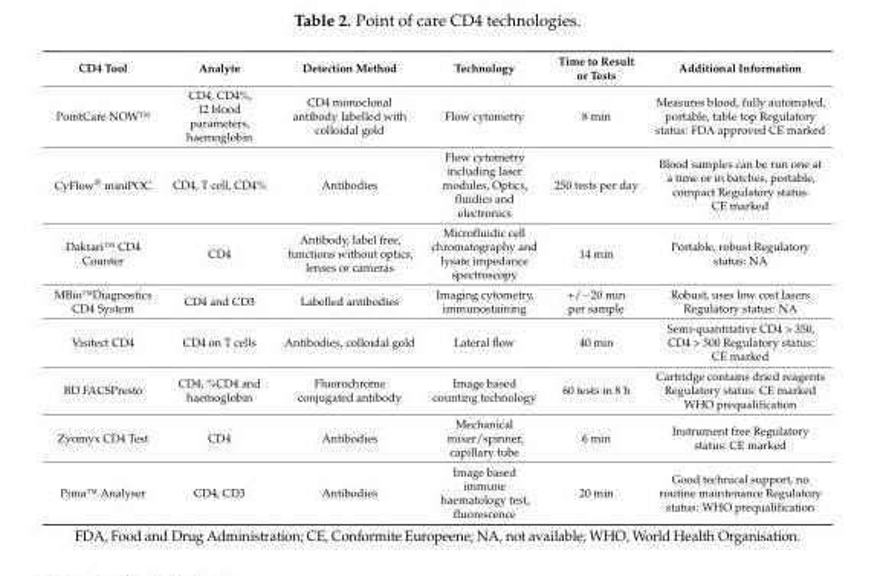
<table><thead><tr><td>CD4 Tool</td><td>Analyte</td><td>Detection Method</td><td>Technology</td><td>Time to Result or Tests</td><td>Additional Information</td></tr></thead><tbody><tr><td>PointCare NOW™</td><td>CD4, CD4%, 12 blood parameters, haemoglobin</td><td>CD4 monoclonal antibody labelled with colloidal gold</td><td>Flow cytometry</td><td>8 min</td><td>Measures blood, fully automated, portable, table top Regulatory status: FDA approved CE marked</td></tr><tr><td>CyFlow<sup>®</sup> miniPOC</td><td>CD4, T cell, CD4%</td><td>Antibodies</td><td>Flow cytometry including laser modules, Optics, fluidics and electronics</td><td>250 tests per day</td><td>Blood samples can be run one at a time or in batches, portable, compact Regulatory status: CE marked</td></tr><tr><td>Daktari™ CD4 Counter</td><td>CD4</td><td>Antibody, label free, functions without optics, lenses or cameras</td><td>Microfluidic cell chromatography and lysate impedance spectroscopy</td><td>14 min</td><td>Portable, robust Regulatory status: NA</td></tr><tr><td>MBio™Diagnostics CD4 System</td><td>CD4 and CD3</td><td>Labelled antibodies</td><td>Imaging cytometry, immunostaining</td><td>+/−20 min per sample</td><td>Robust, uses low cost lasers Regulatory status: NA</td></tr><tr><td>Visitect CD4</td><td>CD4 on T cells</td><td>Antibodies, colloidal gold</td><td>Lateral flow</td><td>40 min</td><td>Semi-quantitative CD4 &gt; 350, CD4 &gt; 500 Regulatory status: CE marked</td></tr><tr><td>BD FACSPresto</td><td>CD4, %CD4 and haemoglobin</td><td>Fluorochrome conjugated antibody</td><td>Image based counting technology</td><td>60 tests in 8 h</td><td>Cartridge contains dried reagents Regulatory status: CE marked WHO prequalification</td></tr><tr><td>Zyomyx CD4 Test</td><td>CD4</td><td>Antibodies</td><td>Mechanical mixer/spinner, capillary tube</td><td>6 min</td><td>Instrument free Regulatory status: CE marked</td></tr><tr><td>Pima™ Analyser</td><td>CD4, CD3</td><td>Antibodies</td><td>Image based immune haematology test, fluorescence</td><td>20 min</td><td>Good technical support, no routine maintenance Regulatory status: WHO prequalification</td></tr></tbody></table>